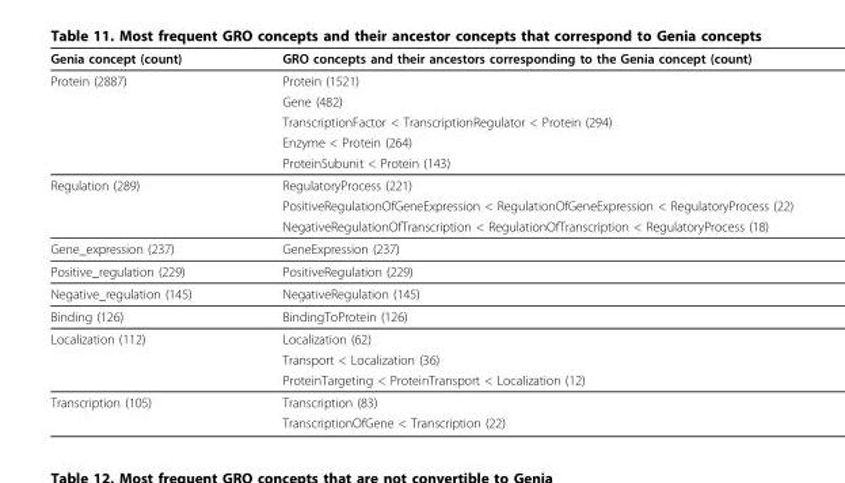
<table><thead><tr><td>Genia concept (count)</td><td>GRO concepts and their ancestors corresponding to the Genia concept (count)</td></tr></thead><tbody><tr><td rowspan="5">Protein (2887)</td><td>Protein (1521)</td></tr><tr><td>Gene (482)</td></tr><tr><td>TranscriptionFactor &lt; TranscriptionRegulator &lt; Protein (294)</td></tr><tr><td>Enzyme &lt; Protein (264)</td></tr><tr><td>ProteinSubunit &lt; Protein (143)</td></tr><tr><td rowspan="3">Regulation (289)</td><td>RegulatoryProcess (221)</td></tr><tr><td>PositiveRegulationOfGeneExpression &lt; RegulationOfGeneExpression &lt; RegulatoryProcess (22)</td></tr><tr><td>NegativeRegulationOfTranscription &lt; RegulationOfTranscription &lt; RegulatoryProcess (18)</td></tr><tr><td>Gene_expression (237)</td><td>GeneExpression (237)</td></tr><tr><td>Positive_regulation (229)</td><td>PositiveRegulation (229)</td></tr><tr><td>Negative_regulation (145)</td><td>NegativeRegulation (145)</td></tr><tr><td>Binding (126)</td><td>BindingToProtein (126)</td></tr><tr><td rowspan="3">Localization (112)</td><td>Localization (62)</td></tr><tr><td>Transport &lt; Localization (36)</td></tr><tr><td>ProteinTargeting &lt; ProteinTransport &lt; Localization (12)</td></tr><tr><td rowspan="2">Transcription (105)</td><td>Transcription (83)</td></tr><tr><td>TranscriptionOfGene &lt; Transcription (22)</td></tr></tbody></table>